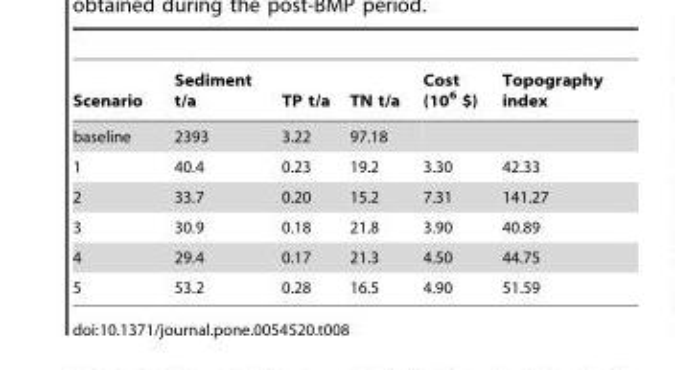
<table><thead><tr><td>Scenario</td><td>Sediment t/a</td><td>TP t/a</td><td>TN t/a</td><td>Cost (10<sup>6</sup> $)</td><td>Topography index</td></tr></thead><tbody><tr><td>baseline</td><td>2393</td><td>3.22</td><td>97.18</td><td></td><td></td></tr><tr><td>1</td><td>40.4</td><td>0.23</td><td>19.2</td><td>3.30</td><td>42.33</td></tr><tr><td>2</td><td>33.7</td><td>0.20</td><td>15.2</td><td>7.31</td><td>141.27</td></tr><tr><td>3</td><td>30.9</td><td>0.18</td><td>21.8</td><td>3.90</td><td>40.89</td></tr><tr><td>4</td><td>29.4</td><td>0.17</td><td>21.3</td><td>4.50</td><td>44.75</td></tr><tr><td>5</td><td>53.2</td><td>0.28</td><td>16.5</td><td>4.90</td><td>51.59</td></tr></tbody></table>